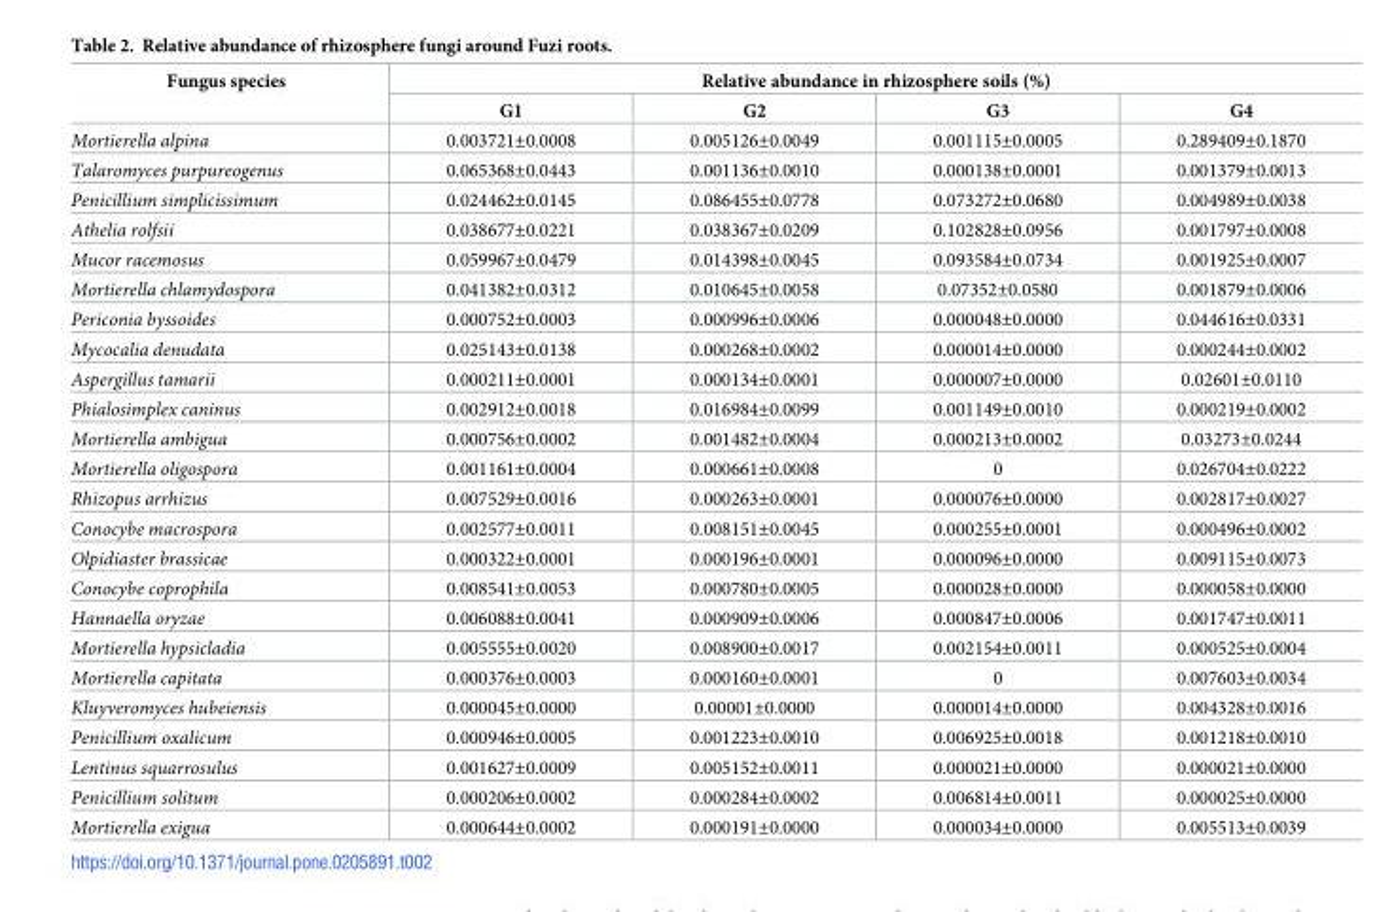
<table><thead><tr><td rowspan="2">Fungus species</td><td colspan="4">Relative abundance in rhizosphere soils (%)</td></tr><tr><td>G1</td><td>G2</td><td>G3</td><td>G4</td></tr></thead><tbody><tr><td>Mortierella alpina</td><td>0.003721±0.0008</td><td>0.005126±0.0049</td><td>0.001115±0.0005</td><td>0.289409±0.1870</td></tr><tr><td>Talaromyces purpureogenus</td><td>0.065368±0.0443</td><td>0.001136±0.0010</td><td>0.000138±0.0001</td><td>0.001379±0.0013</td></tr><tr><td>Penicillium simplicissimum</td><td>0.024462±0.0145</td><td>0.086455±0.0778</td><td>0.073272±0.0680</td><td>0.004989±0.0038</td></tr><tr><td>Athelia rolfsii</td><td>0.038677±0.0221</td><td>0.038367±0.0209</td><td>0.102828±0.0956</td><td>0.001797±0.0008</td></tr><tr><td>Mucor racemosus</td><td>0.059967±0.0479</td><td>0.014398±0.0045</td><td>0.093584±0.0734</td><td>0.001925±0.0007</td></tr><tr><td>Mortierella chlamydospora</td><td>0.041382±0.0312</td><td>0.010645±0.0058</td><td>0.07352±0.0580</td><td>0.001879±0.0006</td></tr><tr><td>Periconia byssoides</td><td>0.000752±0.0003</td><td>0.000996±0.0006</td><td>0.000048±0.0000</td><td>0.044616±0.0331</td></tr><tr><td>Mycocalia denudata</td><td>0.025143±0.0138</td><td>0.000268±0.0002</td><td>0.000014±0.0000</td><td>0.000244±0.0002</td></tr><tr><td>Aspergillus tamarii</td><td>0.000211±0.0001</td><td>0.000134±0.0001</td><td>0.000007±0.0000</td><td>0.02601±0.0110</td></tr><tr><td>Phialosimplex caninus</td><td>0.002912±0.0018</td><td>0.016984±0.0099</td><td>0.001149±0.0010</td><td>0.000219±0.0002</td></tr><tr><td>Mortierella ambigua</td><td>0.000756±0.0002</td><td>0.001482±0.0004</td><td>0.000213±0.0002</td><td>0.03273±0.0244</td></tr><tr><td>Mortierella oligospora</td><td>0.001161±0.0004</td><td>0.000661±0.0008</td><td>0</td><td>0.026704±0.0222</td></tr><tr><td>Rhizopus arrhizus</td><td>0.007529±0.0016</td><td>0.000263±0.0001</td><td>0.000076±0.0000</td><td>0.002817±0.0027</td></tr><tr><td>Conocybe macrospora</td><td>0.002577±0.0011</td><td>0.008151±0.0045</td><td>0.000255±0.0001</td><td>0.000496±0.0002</td></tr><tr><td>Olpidiaster brassicae</td><td>0.000322±0.0001</td><td>0.000196±0.0001</td><td>0.000096±0.0000</td><td>0.009115±0.0073</td></tr><tr><td>Conocybe coprophila</td><td>0.008541±0.0053</td><td>0.000780±0.0005</td><td>0.000028±0.0000</td><td>0.000058±0.0000</td></tr><tr><td>Hannaella oryzae</td><td>0.006088±0.0041</td><td>0.000909±0.0006</td><td>0.000847±0.0006</td><td>0.001747±0.0011</td></tr><tr><td>Mortierella hypsicladia</td><td>0.005555±0.0020</td><td>0.008900±0.0017</td><td>0.002154±0.0011</td><td>0.000525±0.0004</td></tr><tr><td>Mortierella capitata</td><td>0.000376±0.0003</td><td>0.000160±0.0001</td><td>0</td><td>0.007603±0.0034</td></tr><tr><td>Kluyveromyces hubeiensis</td><td>0.000045±0.0000</td><td>0.00001±0.0000</td><td>0.000014±0.0000</td><td>0.004328±0.0016</td></tr><tr><td>Penicillium oxalicum</td><td>0.000946±0.0005</td><td>0.001223±0.0010</td><td>0.006925±0.0018</td><td>0.001218±0.0010</td></tr><tr><td>Lentinus squarrosulus</td><td>0.001627±0.0009</td><td>0.005152±0.0011</td><td>0.000021±0.0000</td><td>0.000021±0.0000</td></tr><tr><td>Penicillium solitum</td><td>0.000206±0.0002</td><td>0.000284±0.0002</td><td>0.006814±0.0011</td><td>0.000025±0.0000</td></tr><tr><td>Mortierella exigua</td><td>0.000644±0.0002</td><td>0.000191±0.0000</td><td>0.000034±0.0000</td><td>0.005513±0.0039</td></tr></tbody></table>